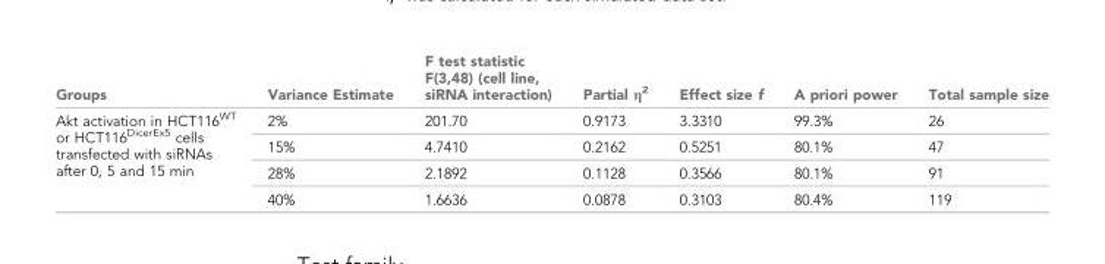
<table><thead><tr><td>Groups</td><td>Variance Estimate</td><td>F test statistic F(3,48) (cell line, siRNA interaction)</td><td>Partial η<sup>2</sup></td><td>Effect size f</td><td>A priori power</td><td>Total sample size</td></tr></thead><tbody><tr><td rowspan="4">Akt activation in HCT116<sup>WT</sup> or HCT116<sup>DicerEx5</sup> cells transfected with siRNAs after 0, 5 and 15 min</td><td>2%</td><td>201.70</td><td>0.9173</td><td>3.3310</td><td>99.3%</td><td>26</td></tr><tr><td>15%</td><td>4.7410</td><td>0.2162</td><td>0.5251</td><td>80.1%</td><td>47</td></tr><tr><td>28%</td><td>2.1892</td><td>0.1128</td><td>0.3566</td><td>80.1%</td><td>91</td></tr><tr><td>40%</td><td>1.6636</td><td>0.0878</td><td>0.3103</td><td>80.4%</td><td>119</td></tr></tbody></table>